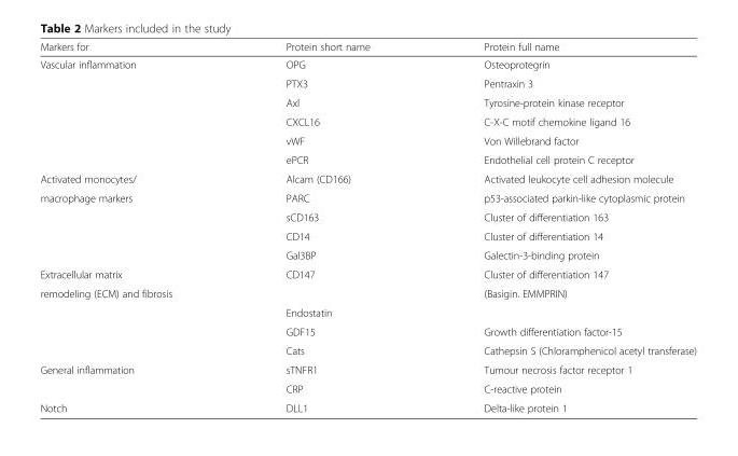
<table><thead><tr><td>Markers for</td><td>Protein short name</td><td>Protein full name</td></tr></thead><tbody><tr><td rowspan="6">Vascular inflammation</td><td>OPG</td><td>Osteoprotegrin</td></tr><tr><td>PTX3</td><td>Pentraxin 3</td></tr><tr><td>Axl</td><td>Tyrosine-protein kinase receptor</td></tr><tr><td>CXCL16</td><td>C-X-C motif chemokine ligand 16</td></tr><tr><td>vWF</td><td>Von Willebrand factor</td></tr><tr><td>ePCR</td><td>Endothelial cell protein C receptor</td></tr><tr><td>Activated monocytes/</td><td>Alcam (CD166)</td><td>Activated leukocyte cell adhesion molecule</td></tr><tr><td rowspan="4">macrophage markers</td><td>PARC</td><td>p53-associated parkin-like cytoplasmic protein</td></tr><tr><td>sCD163</td><td>Cluster of differentiation 163</td></tr><tr><td>CD14</td><td>Cluster of differentiation 14</td></tr><tr><td>Gal3BP</td><td>Galectin-3-binding protein</td></tr><tr><td>Extracellular matrix</td><td rowspan="2">CD147</td><td>Cluster of differentiation 147</td></tr><tr><td rowspan="4">remodeling (ECM) and fibrosis</td><td>(Basigin. EMMPRIN)</td></tr><tr><td>Endostatin</td><td></td></tr><tr><td>GDF15</td><td>Growth differentiation factor-15</td></tr><tr><td>Cats</td><td>Cathepsin S (Chloramphenicol acetyl transferase)</td></tr><tr><td rowspan="2">General inflammation</td><td>sTNFR1</td><td>Tumour necrosis factor receptor 1</td></tr><tr><td>CRP</td><td>C-reactive protein</td></tr><tr><td>Notch</td><td>DLL1</td><td>Delta-like protein 1</td></tr></tbody></table>